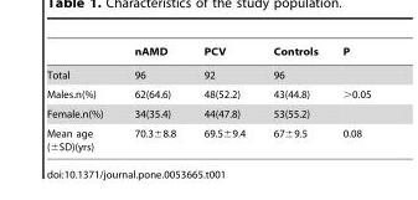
<table><thead><tr><td></td><td>nAMD</td><td>PCV</td><td>Controls</td><td>P</td></tr></thead><tbody><tr><td>Total</td><td>96</td><td>92</td><td>96</td><td></td></tr><tr><td>Males.n(%)</td><td>62(64.6)</td><td>48(52.2)</td><td>43(44.8)</td><td>&gt;0.05</td></tr><tr><td>Female.n(%)</td><td>34(35.4)</td><td>44(47.8)</td><td>53(55.2)</td><td></td></tr><tr><td>Mean age (±SD)(yrs)</td><td>70.3±8.8</td><td>69.5±9.4</td><td>67±9.5</td><td>0.08</td></tr></tbody></table>